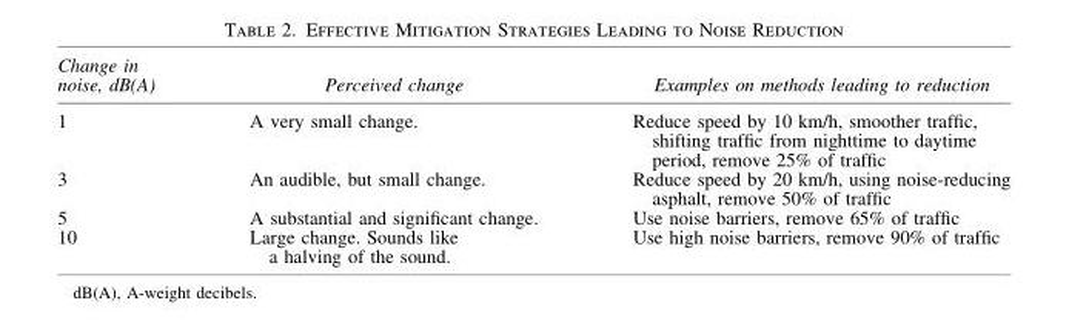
<table><thead><tr><td>Change in noise, dB(A)</td><td>Perceived change</td><td>Examples on methods leading to reduction</td></tr></thead><tbody><tr><td>1</td><td>A very small change.</td><td>Reduce speed by 10 km/h, smoother traffic, shifting traffic from nighttime to daytime period, remove 25% of traffic</td></tr><tr><td>3</td><td>An audible, but small change.</td><td>Reduce speed by 20 km/h, using noise-reducing asphalt, remove 50% of traffic</td></tr><tr><td>5</td><td>A substantial and significant change.</td><td>Use noise barriers, remove 65% of traffic</td></tr><tr><td>10</td><td>Large change. Sounds like a halving of the sound.</td><td>Use high noise barriers, remove 90% of traffic</td></tr></tbody></table>